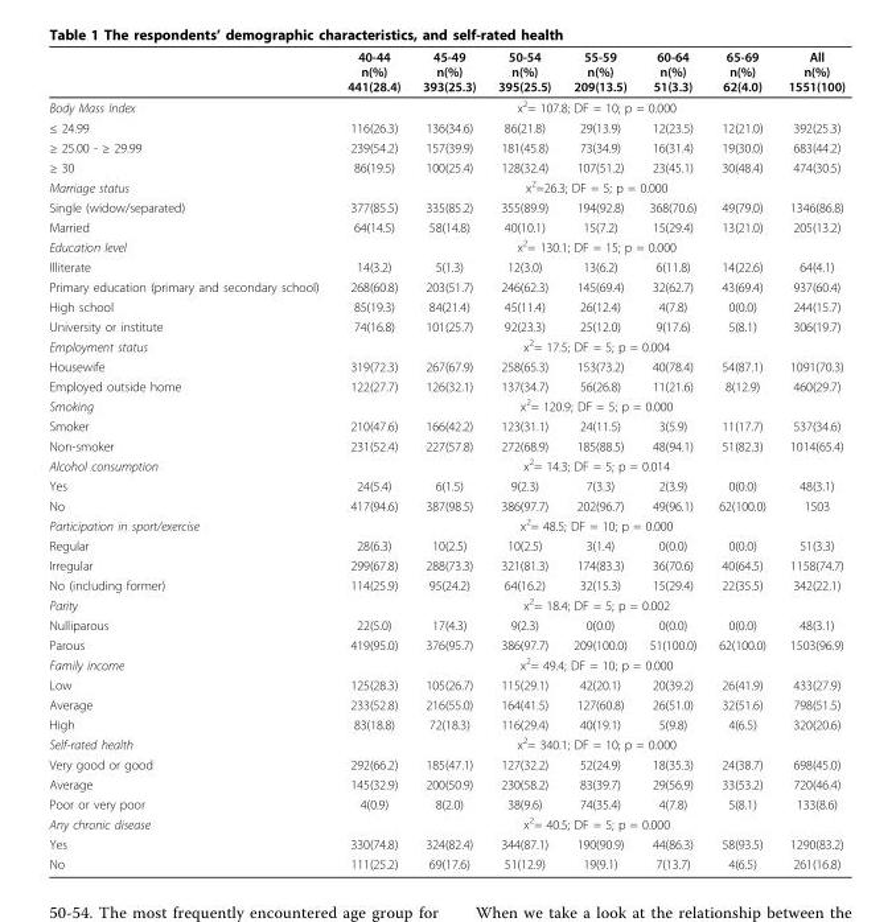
<table><thead><tr><td></td><td>40-44 n(%) 441(28.4)</td><td>45-49 n(%) 393(25.3)</td><td>50-54 n(%) 395(25.5)</td><td>55-59 n(%) 209(13.5)</td><td>60-64 n(%) 51(3.3)</td><td>65-69 n(%) 62(4.0)</td><td>All n(%) 1551(100)</td></tr></thead><tbody><tr><td>Body Mass Index</td><td colspan="7">x<sup>2</sup>= 107.8; DF = 10; p = 0.000</td></tr><tr><td>≤ 24.99</td><td>116(26.3)</td><td>136(34.6)</td><td>86(21.8)</td><td>29(13.9)</td><td>12(23.5)</td><td>12(21.0)</td><td>392(25.3)</td></tr><tr><td>≥ 25.00 - ≥ 29.99</td><td>239(54.2)</td><td>157(39.9)</td><td>181(45.8)</td><td>73(34.9)</td><td>16(31.4)</td><td>19(30.0)</td><td>683(44.2)</td></tr><tr><td>≥ 30</td><td>86(19.5)</td><td>100(25.4)</td><td>128(32.4)</td><td>107(51.2)</td><td>23(45.1)</td><td>30(48.4)</td><td>474(30.5)</td></tr><tr><td>Marriage status</td><td colspan="7">x<sup>2</sup>=26.3; DF = 5; p = 0.000</td></tr><tr><td>Single (widow/separated)</td><td>377(85.5)</td><td>335(85.2)</td><td>355(89.9)</td><td>194(92.8)</td><td>368(70.6)</td><td>49(79.0)</td><td>1346(86.8)</td></tr><tr><td>Married</td><td>64(14.5)</td><td>58(14.8)</td><td>40(10.1)</td><td>15(7.2)</td><td>15(29.4)</td><td>13(21.0)</td><td>205(13.2)</td></tr><tr><td>Education level</td><td colspan="7">x<sup>2</sup>= 130.1; DF = 15; p = 0.000</td></tr><tr><td>Illiterate</td><td>14(3.2)</td><td>5(1.3)</td><td>12(3.0)</td><td>13(6.2)</td><td>6(11.8)</td><td>14(22.6)</td><td>64(4.1)</td></tr><tr><td>Primary education (primary and secondary school)</td><td>268(60.8)</td><td>203(51.7)</td><td>246(62.3)</td><td>145(69.4)</td><td>32(62.7)</td><td>43(69.4)</td><td>937(60.4)</td></tr><tr><td>High school</td><td>85(19.3)</td><td>84(21.4)</td><td>45(11.4)</td><td>26(12.4)</td><td>4(7.8)</td><td>0(0.0)</td><td>244(15.7)</td></tr><tr><td>University or institute</td><td>74(16.8)</td><td>101(25.7)</td><td>92(23.3)</td><td>25(12.0)</td><td>9(17.6)</td><td>5(8.1)</td><td>306(19.7)</td></tr><tr><td>Employment status</td><td colspan="7">x<sup>2</sup>= 17.5; DF = 5; p = 0.004</td></tr><tr><td>Housewife</td><td>319(72.3)</td><td>267(67.9)</td><td>258(65.3)</td><td>153(73.2)</td><td>40(78.4)</td><td>54(87.1)</td><td>1091(70.3)</td></tr><tr><td>Employed outside home</td><td>122(27.7)</td><td>126(32.1)</td><td>137(34.7)</td><td>56(26.8)</td><td>11(21.6)</td><td>8(12.9)</td><td>460(29.7)</td></tr><tr><td>Smoking</td><td colspan="7">x<sup>2</sup>= 120.9; DF = 5; p = 0.000</td></tr><tr><td>Smoker</td><td>210(47.6)</td><td>166(42.2)</td><td>123(31.1)</td><td>24(11.5)</td><td>3(5.9)</td><td>11(17.7)</td><td>537(34.6)</td></tr><tr><td>Non-smoker</td><td>231(52.4)</td><td>227(57.8)</td><td>272(68.9)</td><td>185(88.5)</td><td>48(94.1)</td><td>51(82.3)</td><td>1014(65.4)</td></tr><tr><td>Alcohol consumption</td><td colspan="7">x<sup>2</sup>= 14.3; DF = 5; p = 0.014</td></tr><tr><td>Yes</td><td>24(5.4)</td><td>6(1.5)</td><td>9(2.3)</td><td>7(3.3)</td><td>2(3.9)</td><td>0(0.0)</td><td>48(3.1)</td></tr><tr><td>No</td><td>417(94.6)</td><td>387(98.5)</td><td>386(97.7)</td><td>202(96.7)</td><td>49(96.1)</td><td>62(100.0)</td><td>1503</td></tr><tr><td>Participation in sport/exercise</td><td colspan="7">x<sup>2</sup>= 48.5; DF = 10; p = 0.000</td></tr><tr><td>Regular</td><td>28(6.3)</td><td>10(2.5)</td><td>10(2.5)</td><td>3(1.4)</td><td>0(0.0)</td><td>0(0.0)</td><td>51(3.3)</td></tr><tr><td>Irregular</td><td>299(67.8)</td><td>288(73.3)</td><td>321(81.3)</td><td>174(83.3)</td><td>36(70.6)</td><td>40(64.5)</td><td>1158(74.7)</td></tr><tr><td>No (including former)</td><td>114(25.9)</td><td>95(24.2)</td><td>64(16.2)</td><td>32(15.3)</td><td>15(29.4)</td><td>22(35.5)</td><td>342(22.1)</td></tr><tr><td>Parity</td><td colspan="7">x<sup>2</sup>= 18.4; DF = 5; p = 0.002</td></tr><tr><td>Nulliparous</td><td>22(5.0)</td><td>17(4.3)</td><td>9(2.3)</td><td>0(0.0)</td><td>0(0.0)</td><td>0(0.0)</td><td>48(3.1)</td></tr><tr><td>Parous</td><td>419(95.0)</td><td>376(95.7)</td><td>386(97.7)</td><td>209(100.0)</td><td>51(100.0)</td><td>62(100.0)</td><td>1503(96.9)</td></tr><tr><td>Family income</td><td colspan="7">x<sup>2</sup>= 49.4; DF = 10; p = 0.000</td></tr><tr><td>Low</td><td>125(28.3)</td><td>105(26.7)</td><td>115(29.1)</td><td>42(20.1)</td><td>20(39.2)</td><td>26(41.9)</td><td>433(27.9)</td></tr><tr><td>Average</td><td>233(52.8)</td><td>216(55.0)</td><td>164(41.5)</td><td>127(60.8)</td><td>26(51.0)</td><td>32(51.6)</td><td>798(51.5)</td></tr><tr><td>High</td><td>83(18.8)</td><td>72(18.3)</td><td>116(29.4)</td><td>40(19.1)</td><td>5(9.8)</td><td>4(6.5)</td><td>320(20.6)</td></tr><tr><td>Self-rated health</td><td colspan="7">x<sup>2</sup>= 340.1; DF = 10; p = 0.000</td></tr><tr><td>Very good or good</td><td>292(66.2)</td><td>185(47.1)</td><td>127(32.2)</td><td>52(24.9)</td><td>18(35.3)</td><td>24(38.7)</td><td>698(45.0)</td></tr><tr><td>Average</td><td>145(32.9)</td><td>200(50.9)</td><td>230(58.2)</td><td>83(39.7)</td><td>29(56.9)</td><td>33(53.2)</td><td>720(46.4)</td></tr><tr><td>Poor or very poor</td><td>4(0.9)</td><td>8(2.0)</td><td>38(9.6)</td><td>74(35.4)</td><td>4(7.8)</td><td>5(8.1)</td><td>133(8.6)</td></tr><tr><td>Any chronic disease</td><td colspan="7">x<sup>2</sup>= 40.5; DF = 5; p = 0.000</td></tr><tr><td>Yes</td><td>330(74.8)</td><td>324(82.4)</td><td>344(87.1)</td><td>190(90.9)</td><td>44(86.3)</td><td>58(93.5)</td><td>1290(83.2)</td></tr><tr><td>No</td><td>111(25.2)</td><td>69(17.6)</td><td>51(12.9)</td><td>19(9.1)</td><td>7(13.7)</td><td>4(6.5)</td><td>261(16.8)</td></tr></tbody></table>